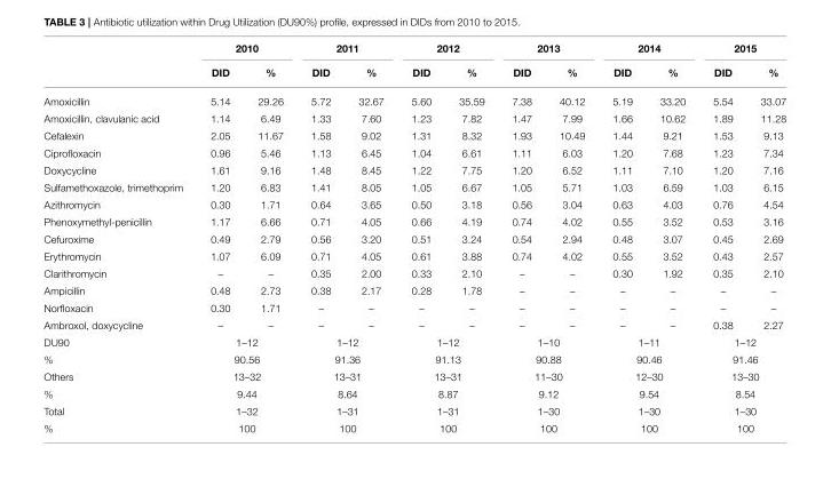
<table><thead><tr><td rowspan="2"></td><td colspan="2">2010</td><td colspan="2">2011</td><td colspan="2">2012</td><td colspan="2">2013</td><td colspan="2">2014</td><td colspan="2">2015</td></tr><tr><td>DID</td><td>%</td><td>DID</td><td>%</td><td>DID</td><td>%</td><td>DID</td><td>%</td><td>DID</td><td>%</td><td>DID</td><td>%</td></tr></thead><tbody><tr><td>Amoxicillin</td><td>5.14</td><td>29.26</td><td>5.72</td><td>32.67</td><td>5.60</td><td>35.59</td><td>7.38</td><td>40.12</td><td>5.19</td><td>33.20</td><td>5.54</td><td>33.07</td></tr><tr><td>Amoxicillin, clavulanic acid</td><td>1.14</td><td>6.49</td><td>1.33</td><td>7.60</td><td>1.23</td><td>7.82</td><td>1.47</td><td>7.99</td><td>1.66</td><td>10.62</td><td>1.89</td><td>11.28</td></tr><tr><td>Cefalexin</td><td>2.05</td><td>11.67</td><td>1.58</td><td>9.02</td><td>1.31</td><td>8.32</td><td>1.93</td><td>10.49</td><td>1.44</td><td>9.21</td><td>1.53</td><td>9.13</td></tr><tr><td>Ciprofloxacin</td><td>0.96</td><td>5.46</td><td>1.13</td><td>6.45</td><td>1.04</td><td>6.61</td><td>1.11</td><td>6.03</td><td>1.20</td><td>7.68</td><td>1.23</td><td>7.34</td></tr><tr><td>Doxycycline</td><td>1.61</td><td>9.16</td><td>1.48</td><td>8.45</td><td>1.22</td><td>7.75</td><td>1.20</td><td>6.52</td><td>1.11</td><td>7.10</td><td>1.20</td><td>7.16</td></tr><tr><td>Sulfamethoxazole, trimethoprim</td><td>1.20</td><td>6.83</td><td>1.41</td><td>8.05</td><td>1.05</td><td>6.67</td><td>1.05</td><td>5.71</td><td>1.03</td><td>6.59</td><td>1.03</td><td>6.15</td></tr><tr><td>Azithromycin</td><td>0.30</td><td>1.71</td><td>0.64</td><td>3.65</td><td>0.50</td><td>3.18</td><td>0.56</td><td>3.04</td><td>0.63</td><td>4.03</td><td>0.76</td><td>4.54</td></tr><tr><td>Phenoxymethyl-penicillin</td><td>1.17</td><td>6.66</td><td>0.71</td><td>4.05</td><td>0.66</td><td>4.19</td><td>0.74</td><td>4.02</td><td>0.55</td><td>3.52</td><td>0.53</td><td>3.16</td></tr><tr><td>Cefuroxime</td><td>0.49</td><td>2.79</td><td>0.56</td><td>3.20</td><td>0.51</td><td>3.24</td><td>0.54</td><td>2.94</td><td>0.48</td><td>3.07</td><td>0.45</td><td>2.69</td></tr><tr><td>Erythromycin</td><td>1.07</td><td>6.09</td><td>0.71</td><td>4.05</td><td>0.61</td><td>3.88</td><td>0.74</td><td>4.02</td><td>0.55</td><td>3.52</td><td>0.43</td><td>2.57</td></tr><tr><td>Clarithromycin</td><td>–</td><td>–</td><td>0.35</td><td>2.00</td><td>0.33</td><td>2.10</td><td>–</td><td>–</td><td>0.30</td><td>1.92</td><td>0.35</td><td>2.10</td></tr><tr><td>Ampicillin</td><td>0.48</td><td>2.73</td><td>0.38</td><td>2.17</td><td>0.28</td><td>1.78</td><td>–</td><td>–</td><td>–</td><td>–</td><td>–</td><td>–</td></tr><tr><td>Norfloxacin</td><td>0.30</td><td>1.71</td><td>–</td><td>–</td><td>–</td><td>–</td><td>–</td><td>–</td><td>–</td><td>–</td><td>–</td><td>–</td></tr><tr><td>Ambroxol, doxycycline</td><td>–</td><td>–</td><td>–</td><td>–</td><td>–</td><td>–</td><td>–</td><td>–</td><td>–</td><td>–</td><td>0.38</td><td>2.27</td></tr><tr><td>DU90</td><td colspan="2">1–12</td><td colspan="2">1–12</td><td colspan="2">1–12</td><td colspan="2">1–10</td><td colspan="2">1–11</td><td colspan="2">1–12</td></tr><tr><td>%</td><td colspan="2">90.56</td><td colspan="2">91.36</td><td colspan="2">91.13</td><td colspan="2">90.88</td><td colspan="2">90.46</td><td colspan="2">91.46</td></tr><tr><td>Others</td><td colspan="2">13–32</td><td colspan="2">13–31</td><td colspan="2">13–31</td><td colspan="2">11–30</td><td colspan="2">12–30</td><td colspan="2">13–30</td></tr><tr><td>%</td><td colspan="2">9.44</td><td colspan="2">8.64</td><td colspan="2">8.87</td><td colspan="2">9.12</td><td colspan="2">9.54</td><td colspan="2">8.54</td></tr><tr><td>Total</td><td colspan="2">1–32</td><td colspan="2">1–31</td><td colspan="2">1–31</td><td colspan="2">1–30</td><td colspan="2">1–30</td><td colspan="2">1–30</td></tr><tr><td>%</td><td colspan="2">100</td><td colspan="2">100</td><td colspan="2">100</td><td colspan="2">100</td><td colspan="2">100</td><td colspan="2">100</td></tr></tbody></table>